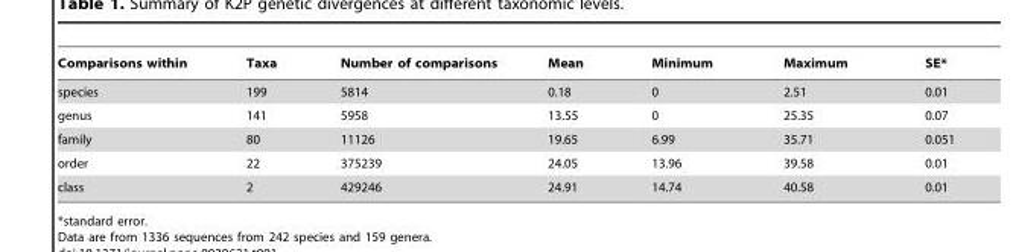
<table><thead><tr><td>Comparisons within</td><td>Taxa</td><td>Number of comparisons</td><td>Mean</td><td>Minimum</td><td>Maximum</td><td>SE*</td></tr></thead><tbody><tr><td>species</td><td>199</td><td>5814</td><td>0.18</td><td>0</td><td>2.51</td><td>0.01</td></tr><tr><td>genus</td><td>141</td><td>5958</td><td>13.55</td><td>0</td><td>25.35</td><td>0.07</td></tr><tr><td>family</td><td>80</td><td>11126</td><td>19.65</td><td>6.99</td><td>35.71</td><td>0.051</td></tr><tr><td>order</td><td>22</td><td>375239</td><td>24.05</td><td>13.96</td><td>39.58</td><td>0.01</td></tr><tr><td>class</td><td>2</td><td>429246</td><td>24.91</td><td>14.74</td><td>40.58</td><td>0.01</td></tr></tbody></table>